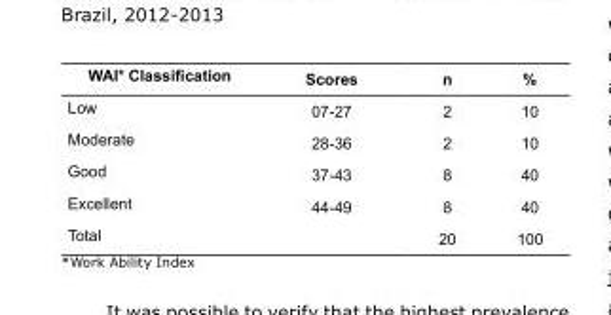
<table><tbody><tr><td>WAI* Classification</td><td>Scores</td><td>n</td><td>%</td></tr><tr><td>Low</td><td>07-27</td><td>2</td><td>10</td></tr><tr><td>Moderate</td><td>28-36</td><td>2</td><td>10</td></tr><tr><td>Good</td><td>37-43</td><td>8</td><td>40</td></tr><tr><td>Excellent</td><td>44-49</td><td>8</td><td>40</td></tr><tr><td>Total</td><td></td><td>20</td><td>100</td></tr></tbody></table>